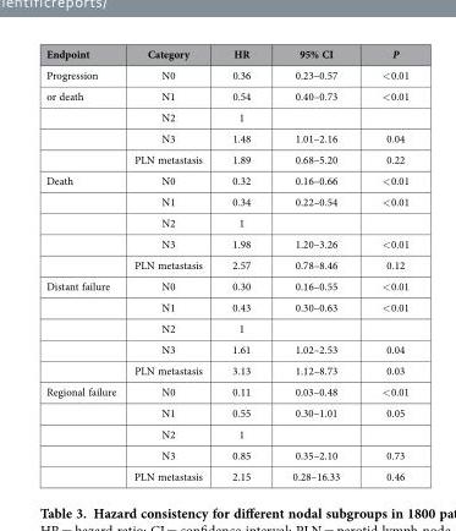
<table><thead><tr><td>Endpoint</td><td>Category</td><td>HR</td><td>95% CI</td><td>P</td></tr></thead><tbody><tr><td>Progression</td><td>N0</td><td>0.36</td><td>0.23–0.57</td><td>&lt; 0.01</td></tr><tr><td rowspan="4">or death</td><td>N1</td><td>0.54</td><td>0.40–0.73</td><td>&lt; 0.01</td></tr><tr><td>N2</td><td>1</td><td></td><td></td></tr><tr><td>N3</td><td>1.48</td><td>1.01–2.16</td><td>0.04</td></tr><tr><td>PLN metastasis</td><td>1.89</td><td>0.68–5.20</td><td>0.22</td></tr><tr><td rowspan="5">Death</td><td>N0</td><td>0.32</td><td>0.16–0.66</td><td>&lt; 0.01</td></tr><tr><td>N1</td><td>0.34</td><td>0.22–0.54</td><td>&lt; 0.01</td></tr><tr><td>N2</td><td>1</td><td></td><td></td></tr><tr><td>N3</td><td>1.98</td><td>1.20–3.26</td><td>&lt; 0.01</td></tr><tr><td>PLN metastasis</td><td>2.57</td><td>0.78–8.46</td><td>0.12</td></tr><tr><td rowspan="5">Distant failure</td><td>N0</td><td>0.30</td><td>0.16–0.55</td><td>&lt; 0.01</td></tr><tr><td>N1</td><td>0.43</td><td>0.30–0.63</td><td>&lt; 0.01</td></tr><tr><td>N2</td><td>1</td><td></td><td></td></tr><tr><td>N3</td><td>1.61</td><td>1.02–2.53</td><td>0.04</td></tr><tr><td>PLN metastasis</td><td>3.13</td><td>1.12–8.73</td><td>0.03</td></tr><tr><td rowspan="5">Regional failure</td><td>N0</td><td>0.11</td><td>0.03–0.48</td><td>&lt; 0.01</td></tr><tr><td>N1</td><td>0.55</td><td>0.30–1.01</td><td>0.05</td></tr><tr><td>N2</td><td>1</td><td></td><td></td></tr><tr><td>N3</td><td>0.85</td><td>0.35–2.10</td><td>0.73</td></tr><tr><td>PLN metastasis</td><td>2.15</td><td>0.28–16.33</td><td>0.46</td></tr></tbody></table>